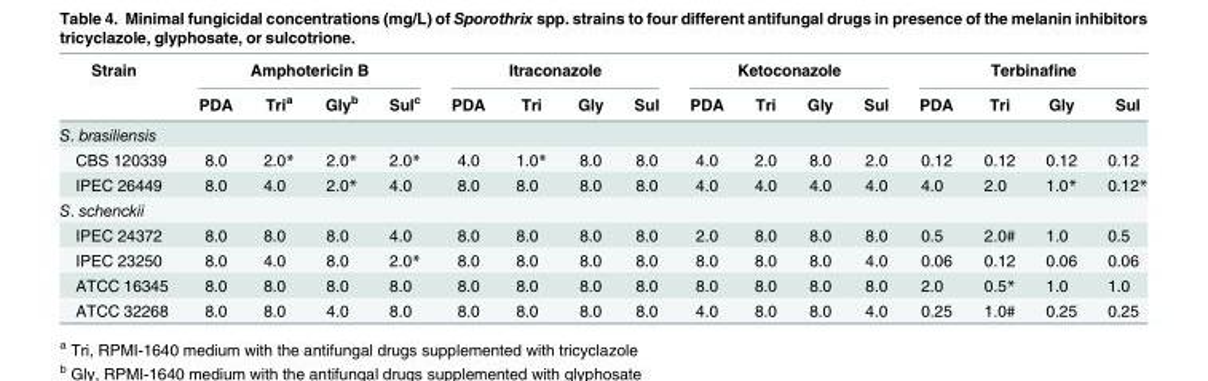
<table><thead><tr><td rowspan="2">Strain</td><td colspan="4">Amphotericin B</td><td colspan="4">Itraconazole</td><td colspan="4">Ketoconazole</td><td colspan="4">Terbinafine</td></tr><tr><td>PDA</td><td>Tri<sup>a</sup></td><td>Gly<sup>b</sup></td><td>Sul<sup>c</sup></td><td>PDA</td><td>Tri</td><td>Gly</td><td>Sul</td><td>PDA</td><td>Tri</td><td>Gly</td><td>Sul</td><td>PDA</td><td>Tri</td><td>Gly</td><td>Sul</td></tr></thead><tbody><tr><td colspan="17">S. brasiliensis</td></tr><tr><td>CBS 120339</td><td>8.0</td><td>2.0*</td><td>2.0*</td><td>2.0*</td><td>4.0</td><td>1.0*</td><td>8.0</td><td>8.0</td><td>4.0</td><td>2.0</td><td>8.0</td><td>2.0</td><td>0.12</td><td>0.12</td><td>0.12</td><td>0.12</td></tr><tr><td>IPEC 26449</td><td>8.0</td><td>4.0</td><td>2.0*</td><td>4.0</td><td>8.0</td><td>8.0</td><td>8.0</td><td>8.0</td><td>4.0</td><td>4.0</td><td>4.0</td><td>4.0</td><td>4.0</td><td>2.0</td><td>1.0*</td><td>0.12*</td></tr><tr><td colspan="17">S. schenckii</td></tr><tr><td>IPEC 24372</td><td>8.0</td><td>8.0</td><td>8.0</td><td>4.0</td><td>8.0</td><td>8.0</td><td>8.0</td><td>8.0</td><td>2.0</td><td>8.0</td><td>8.0</td><td>8.0</td><td>0.5</td><td>2.0#</td><td>1.0</td><td>0.5</td></tr><tr><td>IPEC 23250</td><td>8.0</td><td>4.0</td><td>8.0</td><td>2.0*</td><td>8.0</td><td>8.0</td><td>8.0</td><td>8.0</td><td>8.0</td><td>8.0</td><td>8.0</td><td>4.0</td><td>0.06</td><td>0.12</td><td>0.06</td><td>0.06</td></tr><tr><td>ATCC 16345</td><td>8.0</td><td>8.0</td><td>8.0</td><td>8.0</td><td>8.0</td><td>8.0</td><td>8.0</td><td>8.0</td><td>8.0</td><td>8.0</td><td>8.0</td><td>8.0</td><td>2.0</td><td>0.5*</td><td>1.0</td><td>1.0</td></tr><tr><td>ATCC 32268</td><td>8.0</td><td>8.0</td><td>4.0</td><td>8.0</td><td>8.0</td><td>8.0</td><td>8.0</td><td>8.0</td><td>4.0</td><td>8.0</td><td>8.0</td><td>4.0</td><td>0.25</td><td>1.0#</td><td>0.25</td><td>0.25</td></tr></tbody></table>